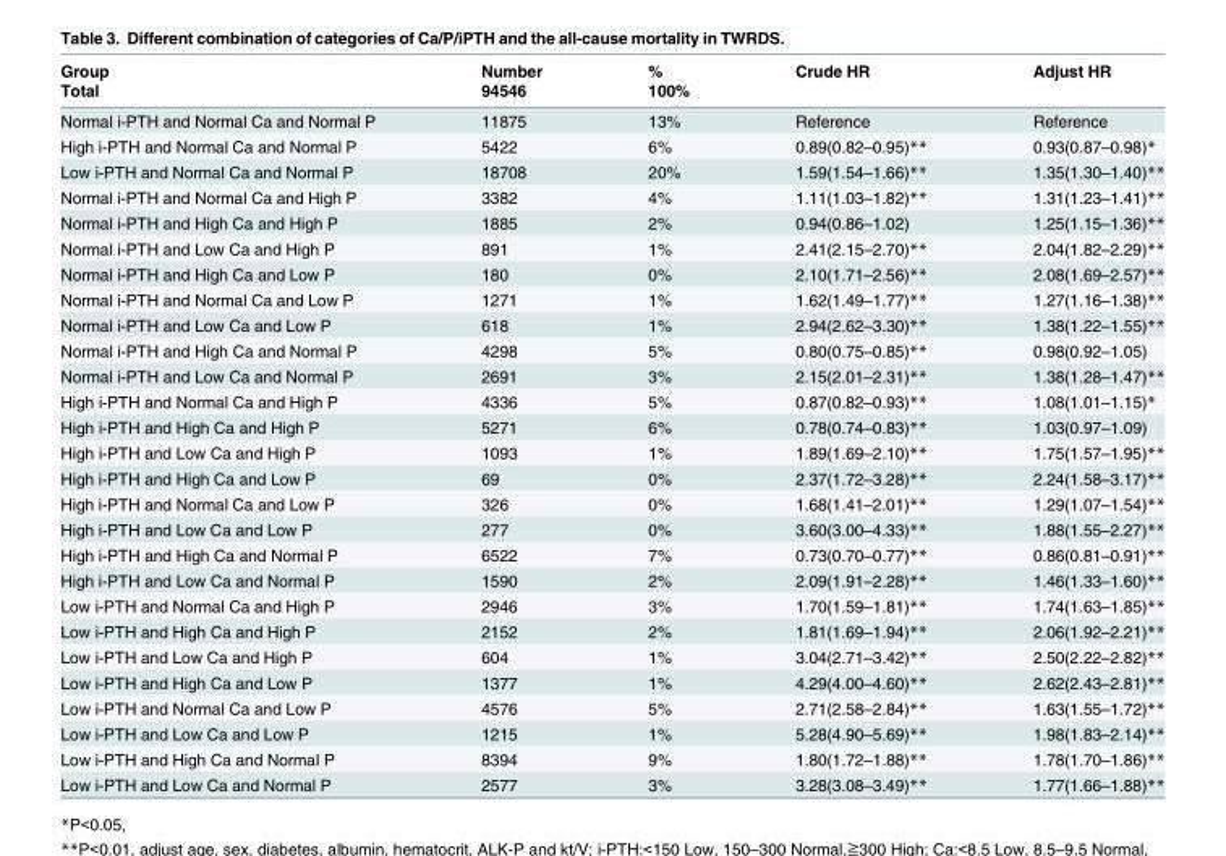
<table><thead><tr><td rowspan="2">Group Total</td><td rowspan="2">Number 94546</td><td rowspan="2">% 100%</td><td rowspan="2">Crude HR</td><td rowspan="2">Adjust HR</td></tr><tr></tr></thead><tbody><tr><td>Normal i-PTH and Normal Ca and Normal P</td><td>11875</td><td>13%</td><td>Reference</td><td>Reference</td></tr><tr><td>High i-PTH and Normal Ca and Normal P</td><td>5422</td><td>6%</td><td>0.89(0.82–0.95)**</td><td>0.93(0.87–0.98)*</td></tr><tr><td>Low i-PTH and Normal Ca and Normal P</td><td>18708</td><td>20%</td><td>1.59(1.54–1.66)**</td><td>1.35(1.30–1.40)**</td></tr><tr><td>Normal i-PTH and Normal Ca and High P</td><td>3382</td><td>4%</td><td>1.11(1.03–1.82)**</td><td>1.31(1.23–1.41)**</td></tr><tr><td>Normal i-PTH and High Ca and High P</td><td>1885</td><td>2%</td><td>0.94(0.86–1.02)</td><td>1.25(1.15–1.36)**</td></tr><tr><td>Normal i-PTH and Low Ca and High P</td><td>891</td><td>1%</td><td>2.41(2.15–2.70)**</td><td>2.04(1.82–2.29)**</td></tr><tr><td>Normal i-PTH and High Ca and Low P</td><td>180</td><td>0%</td><td>2.10(1.71–2.56)**</td><td>2.08(1.69–2.57)**</td></tr><tr><td>Normal i-PTH and Normal Ca and Low P</td><td>1271</td><td>1%</td><td>1.62(1.49–1.77)**</td><td>1.27(1.16–1.38)**</td></tr><tr><td>Normal i-PTH and Low Ca and Low P</td><td>618</td><td>1%</td><td>2.94(2.62–3.30)**</td><td>1.38(1.22–1.55)**</td></tr><tr><td>Normal i-PTH and High Ca and Normal P</td><td>4298</td><td>5%</td><td>0.80(0.75–0.85)**</td><td>0.98(0.92–1.05)</td></tr><tr><td>Normal i-PTH and Low Ca and Normal P</td><td>2691</td><td>3%</td><td>2.15(2.01–2.31)**</td><td>1.38(1.28–1.47)**</td></tr><tr><td>High i-PTH and Normal Ca and High P</td><td>4336</td><td>5%</td><td>0.87(0.82–0.93)**</td><td>1.08(1.01–1.15)*</td></tr><tr><td>High i-PTH and High Ca and High P</td><td>5271</td><td>6%</td><td>0.78(0.74–0.83)**</td><td>1.03(0.97–1.09)</td></tr><tr><td>High i-PTH and Low Ca and High P</td><td>1093</td><td>1%</td><td>1.89(1.69–2.10)**</td><td>1.75(1.57–1.95)**</td></tr><tr><td>High i-PTH and High Ca and Low P</td><td>69</td><td>0%</td><td>2.37(1.72–3.28)**</td><td>2.24(1.58–3.17)**</td></tr><tr><td>High i-PTH and Normal Ca and Low P</td><td>326</td><td>0%</td><td>1.68(1.41–2.01)**</td><td>1.29(1.07–1.54)**</td></tr><tr><td>High i-PTH and Low Ca and Low P</td><td>277</td><td>0%</td><td>3.60(3.00–4.33)**</td><td>1.88(1.55–2.27)**</td></tr><tr><td>High i-PTH and High Ca and Normal P</td><td>6522</td><td>7%</td><td>0.73(0.70–0.77)**</td><td>0.86(0.81–0.91)**</td></tr><tr><td>High i-PTH and Low Ca and Normal P</td><td>1590</td><td>2%</td><td>2.09(1.91–2.28)**</td><td>1.46(1.33–1.60)**</td></tr><tr><td>Low i-PTH and Normal Ca and High P</td><td>2946</td><td>3%</td><td>1.70(1.59–1.81)**</td><td>1.74(1.63–1.85)**</td></tr><tr><td>Low i-PTH and High Ca and High P</td><td>2152</td><td>2%</td><td>1.81(1.69–1.94)**</td><td>2.06(1.92–2.21)**</td></tr><tr><td>Low i-PTH and Low Ca and High P</td><td>604</td><td>1%</td><td>3.04(2.71–3.42)**</td><td>2.50(2.22–2.82)**</td></tr><tr><td>Low i-PTH and High Ca and Low P</td><td>1377</td><td>1%</td><td>4.29(4.00–4.60)**</td><td>2.62(2.43–2.81)**</td></tr><tr><td>Low i-PTH and Normal Ca and Low P</td><td>4576</td><td>5%</td><td>2.71(2.58–2.84)**</td><td>1.63(1.55–1.72)**</td></tr><tr><td>Low i-PTH and Low Ca and Low P</td><td>1215</td><td>1%</td><td>5.28(4.90–5.69)**</td><td>1.98(1.83–2.14)**</td></tr><tr><td>Low i-PTH and High Ca and Normal P</td><td>8394</td><td>9%</td><td>1.80(1.72–1.88)**</td><td>1.78(1.70–1.86)**</td></tr><tr><td>Low i-PTH and Low Ca and Normal P</td><td>2577</td><td>3%</td><td>3.28(3.08–3.49)**</td><td>1.77(1.66–1.88)**</td></tr></tbody></table>